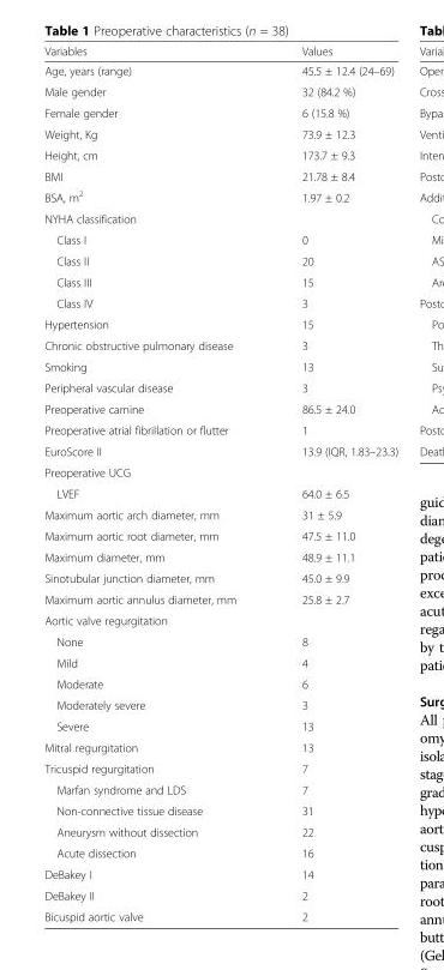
<table><thead><tr><td>Variables</td><td>Values</td></tr></thead><tbody><tr><td>Age, years (range)</td><td>45.5 ± 12.4 (24–69)</td></tr><tr><td>Male gender</td><td>32 (84.2 %)</td></tr><tr><td>Female gender</td><td>6 (15.8 %)</td></tr><tr><td>Weight, Kg</td><td>73.9 ± 12.3</td></tr><tr><td>Height, cm</td><td>173.7 ± 9.3</td></tr><tr><td>BMI</td><td>21.78 ± 8.4</td></tr><tr><td>BSA, m<sup>2</sup></td><td>1.97 ± 0.2</td></tr><tr><td colspan="2">NYHA classification</td></tr><tr><td>Class I</td><td>0</td></tr><tr><td>Class II</td><td>20</td></tr><tr><td>Class III</td><td>15</td></tr><tr><td>Class IV</td><td>3</td></tr><tr><td>Hypertension</td><td>15</td></tr><tr><td>Chronic obstructive pulmonary disease</td><td>3</td></tr><tr><td>Smoking</td><td>13</td></tr><tr><td>Peripheral vascular disease</td><td>3</td></tr><tr><td>Preoperative carnine</td><td>86.5 ± 24.0</td></tr><tr><td>Preoperative atrial fibrillation or flutter</td><td>1</td></tr><tr><td>EuroScore II</td><td>13.9 (IQR, 1.83–23.3)</td></tr><tr><td colspan="2">Preoperative UCG</td></tr><tr><td>LVEF</td><td>64.0 ± 6.5</td></tr><tr><td>Maximum aortic arch diameter, mm</td><td>31 ± 5.9</td></tr><tr><td>Maximum aortic root diameter, mm</td><td>47.5 ± 11.0</td></tr><tr><td>Maximum diameter, mm</td><td>48.9 ± 11.1</td></tr><tr><td>Sinotubular junction diameter, mm</td><td>45.0 ± 9.9</td></tr><tr><td>Maximum aortic annulus diameter, mm</td><td>25.8 ± 2.7</td></tr><tr><td colspan="2">Aortic valve regurgitation</td></tr><tr><td>None</td><td>8</td></tr><tr><td>Mild</td><td>4</td></tr><tr><td>Moderate</td><td>6</td></tr><tr><td>Moderately severe</td><td>3</td></tr><tr><td>Severe</td><td>13</td></tr><tr><td>Mitral regurgitation</td><td>13</td></tr><tr><td>Tricuspid regurgitation</td><td>7</td></tr><tr><td>Marfan syndrome and LDS</td><td>7</td></tr><tr><td>Non-connective tissue disease</td><td>31</td></tr><tr><td>Aneurysm without dissection</td><td>22</td></tr><tr><td>Acute dissection</td><td>16</td></tr><tr><td>DeBakey I</td><td>14</td></tr><tr><td>DeBakey II</td><td>2</td></tr><tr><td>Bicuspid aortic valve</td><td>2</td></tr></tbody></table>